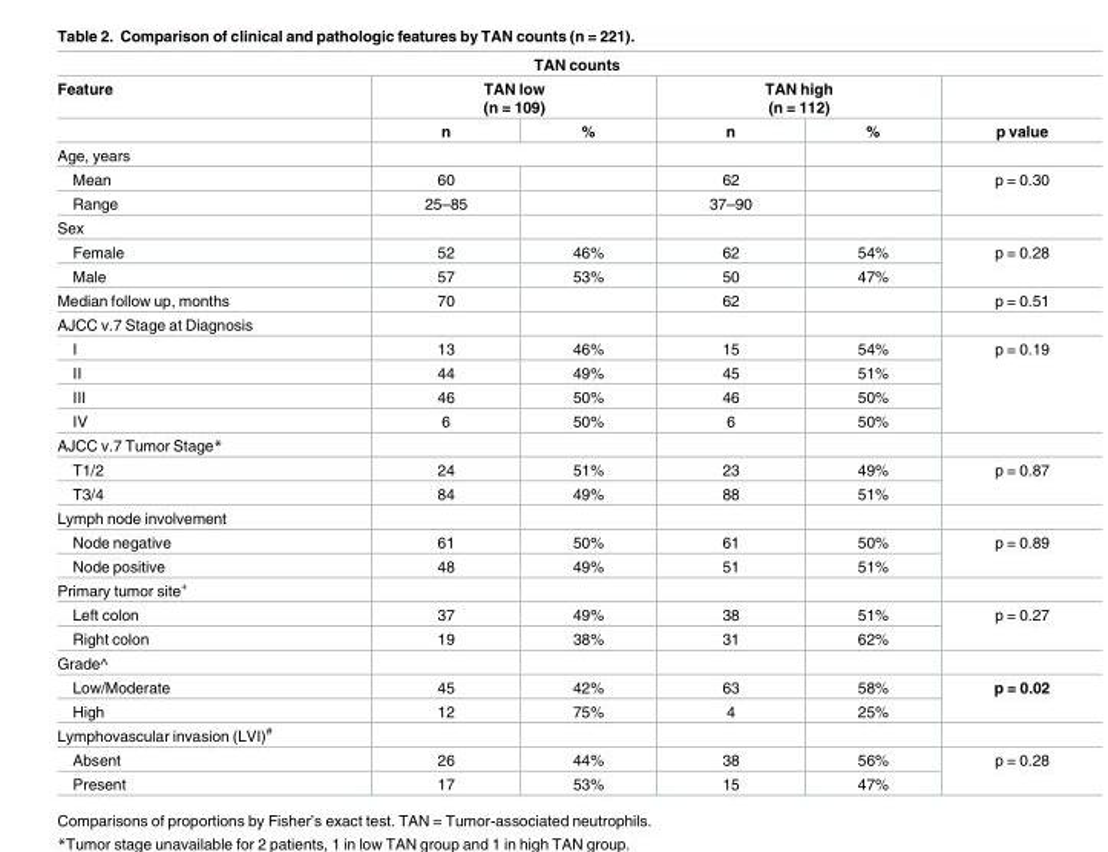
<table><thead><tr><td colspan="6">TAN counts</td></tr><tr><td rowspan="2">Feature</td><td colspan="2">TAN low (n = 109)</td><td colspan="2">TAN high (n = 112)</td><td rowspan="2">p value</td></tr><tr><td>n</td><td>%</td><td>n</td><td>%</td></tr></thead><tbody><tr><td colspan="6">Age, years</td></tr><tr><td>Mean</td><td>60</td><td></td><td>62</td><td></td><td rowspan="2">p = 0.30</td></tr><tr><td>Range</td><td>25–85</td><td></td><td>37–90</td><td></td></tr><tr><td colspan="6">Sex</td></tr><tr><td>Female</td><td>52</td><td>46%</td><td>62</td><td>54%</td><td rowspan="2">p = 0.28</td></tr><tr><td>Male</td><td>57</td><td>53%</td><td>50</td><td>47%</td></tr><tr><td>Median follow up, months</td><td>70</td><td></td><td>62</td><td></td><td>p = 0.51</td></tr><tr><td colspan="6">AJCC v.7 Stage at Diagnosis</td></tr><tr><td>I</td><td>13</td><td>46%</td><td>15</td><td>54%</td><td rowspan="4">p = 0.19</td></tr><tr><td>II</td><td>44</td><td>49%</td><td>45</td><td>51%</td></tr><tr><td>III</td><td>46</td><td>50%</td><td>46</td><td>50%</td></tr><tr><td>IV</td><td>6</td><td>50%</td><td>6</td><td>50%</td></tr><tr><td colspan="6">AJCC v.7 Tumor Stage*</td></tr><tr><td>T1/2</td><td>24</td><td>51%</td><td>23</td><td>49%</td><td rowspan="2">p = 0.87</td></tr><tr><td>T3/4</td><td>84</td><td>49%</td><td>88</td><td>51%</td></tr><tr><td colspan="6">Lymph node involvement</td></tr><tr><td>Node negative</td><td>61</td><td>50%</td><td>61</td><td>50%</td><td rowspan="2">p = 0.89</td></tr><tr><td>Node positive</td><td>48</td><td>49%</td><td>51</td><td>51%</td></tr><tr><td colspan="6">Primary tumor site<sup>+</sup></td></tr><tr><td>Left colon</td><td>37</td><td>49%</td><td>38</td><td>51%</td><td rowspan="2">p = 0.27</td></tr><tr><td>Right colon</td><td>19</td><td>38%</td><td>31</td><td>62%</td></tr><tr><td colspan="6">Grade^</td></tr><tr><td>Low/Moderate</td><td>45</td><td>42%</td><td>63</td><td>58%</td><td rowspan="2">p = 0.02</td></tr><tr><td>High</td><td>12</td><td>75%</td><td>4</td><td>25%</td></tr><tr><td colspan="6">Lymphovascular invasion (LVI)<sup>#</sup></td></tr><tr><td>Absent</td><td>26</td><td>44%</td><td>38</td><td>56%</td><td rowspan="2">p = 0.28</td></tr><tr><td>Present</td><td>17</td><td>53%</td><td>15</td><td>47%</td></tr></tbody></table>